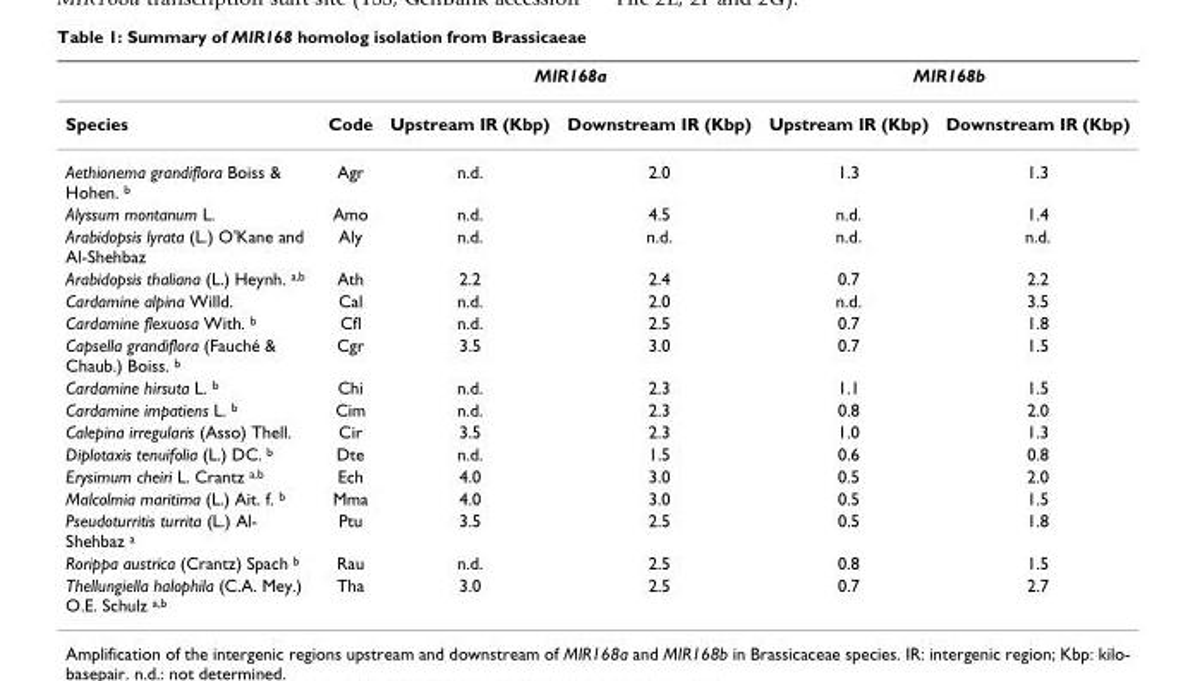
<table><thead><tr><td rowspan="2">Species</td><td rowspan="2">Code</td><td colspan="2">MIR168a</td><td colspan="2">MIR168b</td></tr><tr><td>Upstream IR (Kbp)</td><td>Downstream IR (Kbp)</td><td>Upstream IR (Kbp)</td><td>Downstream IR (Kbp)</td></tr></thead><tbody><tr><td>Aethionema grandiflora Boiss &amp; Hohen. <sup>b</sup></td><td>Agr</td><td>n.d.</td><td>2.0</td><td>1.3</td><td>1.3</td></tr><tr><td>Alyssum montanum L.</td><td>Amo</td><td>n.d.</td><td>4.5</td><td>n.d.</td><td>1.4</td></tr><tr><td>Arabidopsis lyrata (L.) O&#x27;Kane and Al-Shehbaz</td><td>Aly</td><td>n.d.</td><td>n.d.</td><td>n.d.</td><td>n.d.</td></tr><tr><td>Arabidopsis thaliana (L.) Heynh. <sup>a,b</sup></td><td>Ath</td><td>2.2</td><td>2.4</td><td>0.7</td><td>2.2</td></tr><tr><td>Cardamine alpina Willd.</td><td>Cal</td><td>n.d.</td><td>2.0</td><td>n.d.</td><td>3.5</td></tr><tr><td>Cardamine flexuosa With. <sup>b</sup></td><td>Cfl</td><td>n.d.</td><td>2.5</td><td>0.7</td><td>1.8</td></tr><tr><td>Capsella grandiflora (Fauché &amp; Chaub.) Boiss. <sup>b</sup></td><td>Cgr</td><td>3.5</td><td>3.0</td><td>0.7</td><td>1.5</td></tr><tr><td>Cardamine hirsuta L. <sup>b</sup></td><td>Chi</td><td>n.d.</td><td>2.3</td><td>1.1</td><td>1.5</td></tr><tr><td>Cardamine impatiens L. <sup>b</sup></td><td>Cim</td><td>n.d.</td><td>2.3</td><td>0.8</td><td>2.0</td></tr><tr><td>Calepina irregularis (Asso) Thell.</td><td>Cir</td><td>3.5</td><td>2.3</td><td>1.0</td><td>1.3</td></tr><tr><td>Diplotaxis tenuifolia (L.) DC. <sup>b</sup></td><td>Dte</td><td>n.d.</td><td>1.5</td><td>0.6</td><td>0.8</td></tr><tr><td>Erysimum cheiri L. Crantz <sup>a,b</sup></td><td>Ech</td><td>4.0</td><td>3.0</td><td>0.5</td><td>2.0</td></tr><tr><td>Malcolmia maritima (L.) Ait. f. <sup>b</sup></td><td>Mma</td><td>4.0</td><td>3.0</td><td>0.5</td><td>1.5</td></tr><tr><td>Pseudoturritis turrita (L.) Al- Shehbaz <sup>a</sup></td><td>Ptu</td><td>3.5</td><td>2.5</td><td>0.5</td><td>1.8</td></tr><tr><td>Rorippa austrica (Crantz) Spach <sup>b</sup></td><td>Rau</td><td>n.d.</td><td>2.5</td><td>0.8</td><td>1.5</td></tr><tr><td>Thellungiella halophila (C.A. Mey.) O.E. Schulz <sup>a,b</sup></td><td>Tha</td><td>3.0</td><td>2.5</td><td>0.7</td><td>2.7</td></tr></tbody></table>